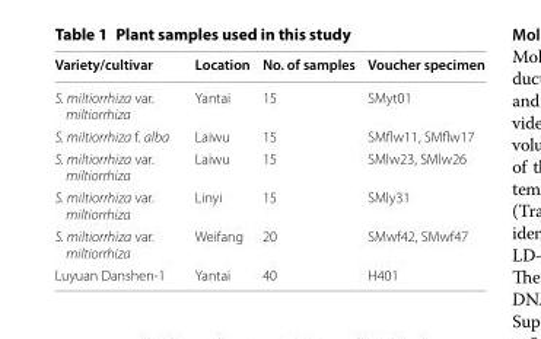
<table><thead><tr><td>Variety/cultivar</td><td>Location</td><td>No. of samples</td><td>Voucher specimen</td></tr></thead><tbody><tr><td>S. miltiorrhiza var. miltiorrhiza</td><td>Yantai</td><td>15</td><td>SMyt01</td></tr><tr><td>S. miltiorrhiza f. alba</td><td>Laiwu</td><td>15</td><td>SMflw11, SMflw17</td></tr><tr><td>S. miltiorrhiza var. miltiorrhiza</td><td>Laiwu</td><td>15</td><td>SMlw23, SMlw26</td></tr><tr><td>S. miltiorrhiza var. miltiorrhiza</td><td>Linyi</td><td>15</td><td>SMly31</td></tr><tr><td>S. miltiorrhiza var. miltiorrhiza</td><td>Weifang</td><td>20</td><td>SMwf42, SMwf47</td></tr><tr><td>Luyuan Danshen-1</td><td>Yantai</td><td>40</td><td>H401</td></tr></tbody></table>